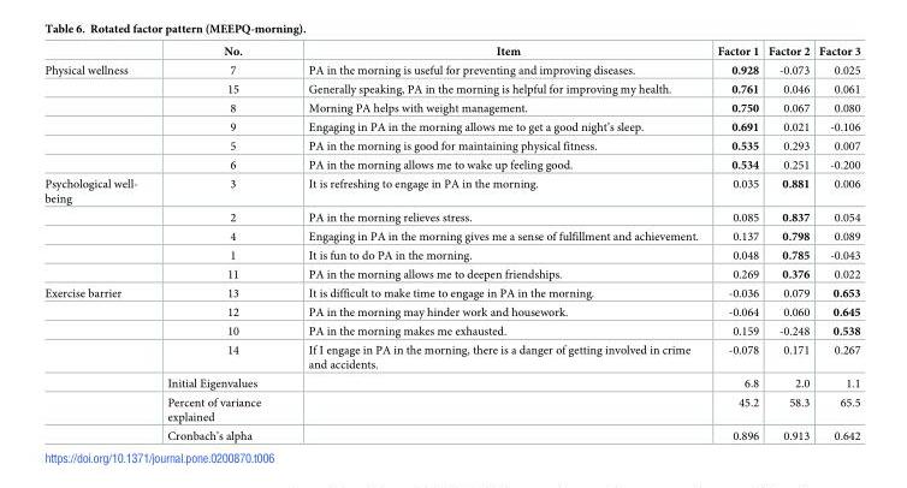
<table><thead><tr><td></td><td>No.</td><td>Item</td><td>Factor 1</td><td>Factor 2</td><td>Factor 3</td></tr></thead><tbody><tr><td rowspan="6">Physical wellness</td><td>7</td><td>PA in the morning is useful for preventing and improving diseases.</td><td>0.928</td><td>-0.073</td><td>0.025</td></tr><tr><td>15</td><td>Generally speaking, PA in the morning is helpful for improving my health.</td><td>0.761</td><td>0.046</td><td>0.061</td></tr><tr><td>8</td><td>Morning PA helps with weight management.</td><td>0.750</td><td>0.067</td><td>0.080</td></tr><tr><td>9</td><td>Engaging in PA in the morning allows me to get a good night’s sleep.</td><td>0.691</td><td>0.021</td><td>-0.106</td></tr><tr><td>5</td><td>PA in the morning is good for maintaining physical fitness.</td><td>0.535</td><td>0.293</td><td>0.007</td></tr><tr><td>6</td><td>PA in the morning allows me to wake up feeling good.</td><td>0.534</td><td>0.251</td><td>-0.200</td></tr><tr><td rowspan="5">Psychological well- being</td><td>3</td><td>It is refreshing to engage in PA in the morning.</td><td>0.035</td><td>0.881</td><td>0.006</td></tr><tr><td>2</td><td>PA in the morning relieves stress.</td><td>0.085</td><td>0.837</td><td>0.054</td></tr><tr><td>4</td><td>Engaging in PA in the morning gives me a sense of fulfillment and achievement.</td><td>0.137</td><td>0.798</td><td>0.089</td></tr><tr><td>1</td><td>It is fun to do PA in the morning.</td><td>0.048</td><td>0.785</td><td>-0.043</td></tr><tr><td>11</td><td>PA in the morning allows me to deepen friendships.</td><td>0.269</td><td>0.376</td><td>0.022</td></tr><tr><td rowspan="7">Exercise barrier</td><td>13</td><td>It is difficult to make time to engage in PA in the morning.</td><td>-0.036</td><td>0.079</td><td>0.653</td></tr><tr><td>12</td><td>PA in the morning may hinder work and housework.</td><td>-0.064</td><td>0.060</td><td>0.645</td></tr><tr><td>10</td><td>PA in the morning makes me exhausted.</td><td>0.159</td><td>-0.248</td><td>0.538</td></tr><tr><td>14</td><td>If I engage in PA in the morning, there is a danger of getting involved in crime and accidents.</td><td>-0.078</td><td>0.171</td><td>0.267</td></tr><tr><td>Initial Eigenvalues</td><td></td><td>6.8</td><td>2.0</td><td>1.1</td></tr><tr><td>Percent of variance explained</td><td></td><td>45.2</td><td>58.3</td><td>65.5</td></tr><tr><td>Cronbach’s alpha</td><td></td><td>0.896</td><td>0.913</td><td>0.642</td></tr></tbody></table>